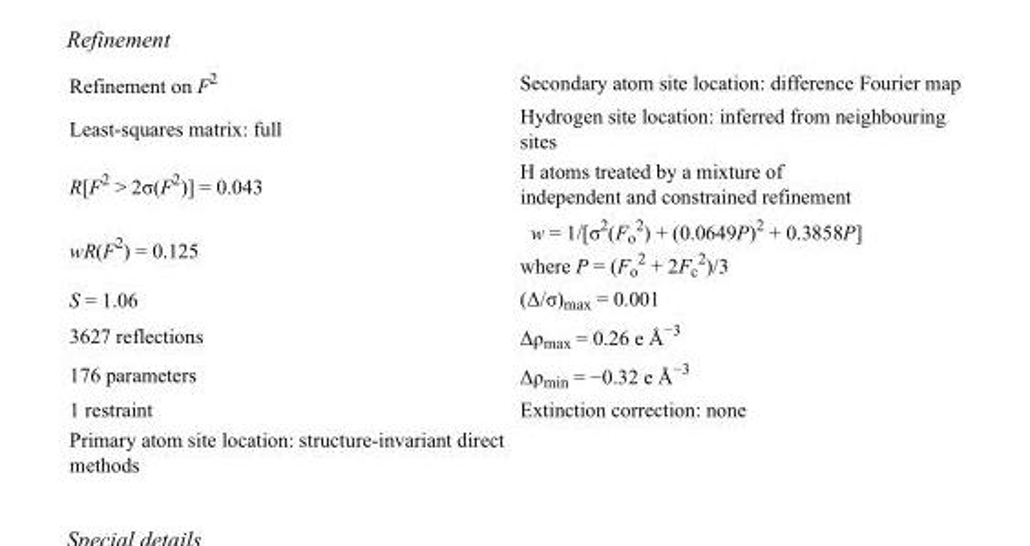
<table><tbody><tr><td>Refinement on F<sup>2</sup></td><td>Secondary atom site location: difference Fourier map</td></tr><tr><td>Least-squares matrix: full</td><td>Hydrogen site location: inferred from neighbouring sites</td></tr><tr><td>R[F<sup>2</sup> &gt; 2σ(F<sup>2</sup>)] = 0.043</td><td>H atoms treated by a mixture of independent and constrained refinement</td></tr><tr><td>wR(F<sup>2</sup>) = 0.125</td><td>w = 1/[σ<sup>2</sup>(F<sub>o</sub> <sup>2</sup>) + (0.0649P)<sup>2</sup> + 0.3858P] where P = (F<sub>o</sub> <sup>2</sup> + 2F<sub>c</sub> <sup>2</sup>)/3</td></tr><tr><td>S = 1.06</td><td>(Δ/σ)<sub>max</sub> = 0.001</td></tr><tr><td>3627 reflections</td><td>Δρ<sub>max</sub> = 0.26 e Å<sup>−3</sup></td></tr><tr><td>176 parameters</td><td>Δρ<sub>min</sub> = −0.32 e Å<sup>−3</sup></td></tr><tr><td>1 restraint</td><td>Extinction correction: none</td></tr><tr><td>Primary atom site location: structure-invariant direct methods</td><td></td></tr></tbody></table>